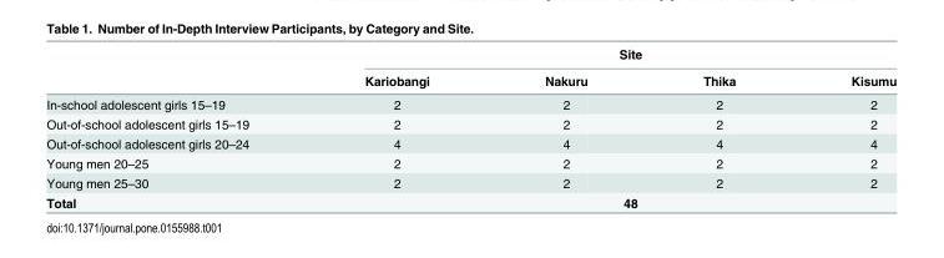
<table><thead><tr><td rowspan="2"></td><td colspan="4">Site</td></tr><tr><td>Kariobangi</td><td>Nakuru</td><td>Thika</td><td>Kisumu</td></tr></thead><tbody><tr><td>In-school adolescent girls 15–19</td><td>2</td><td>2</td><td>2</td><td>2</td></tr><tr><td>Out-of-school adolescent girls 15–19</td><td>2</td><td>2</td><td>2</td><td>2</td></tr><tr><td>Out-of-school adolescent girls 20–24</td><td>4</td><td>4</td><td>4</td><td>4</td></tr><tr><td>Young men 20–25</td><td>2</td><td>2</td><td>2</td><td>2</td></tr><tr><td>Young men 25–30</td><td>2</td><td>2</td><td>2</td><td>2</td></tr><tr><td>Total</td><td colspan="4">48</td></tr></tbody></table>